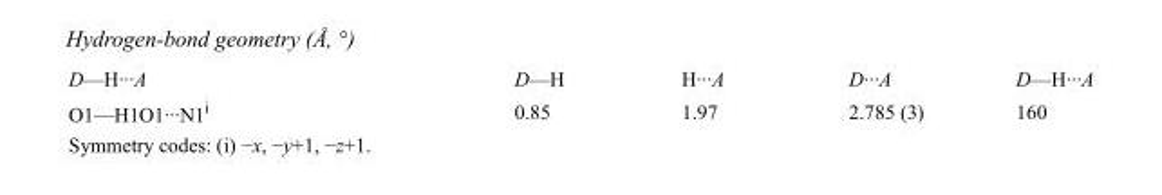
<table><tbody><tr><td>D—H···A</td><td>D—H</td><td>H···A</td><td>D···A</td><td>D—H···A</td></tr><tr><td>O1—H1O1···N1<sup>i</sup></td><td>0.85</td><td>1.97</td><td>2.785 (3)</td><td>160</td></tr></tbody></table>